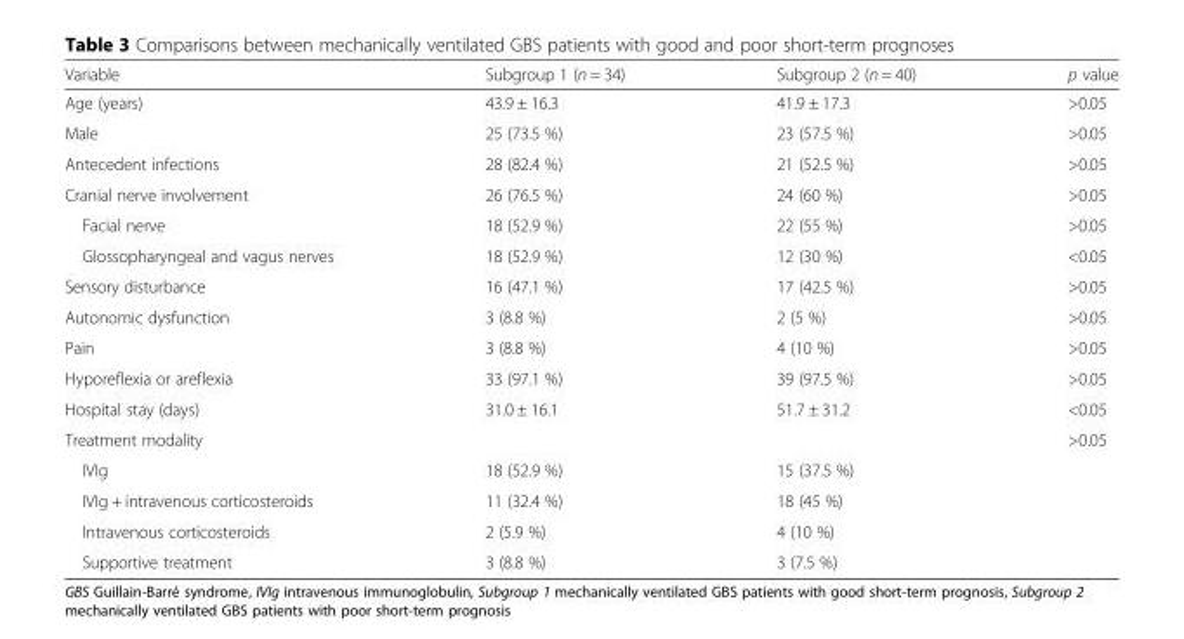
<table><thead><tr><td>Variable</td><td>Subgroup 1 (n = 34)</td><td>Subgroup 2 (n = 40)</td><td>p value</td></tr></thead><tbody><tr><td>Age (years)</td><td>43.9 ± 16.3</td><td>41.9 ± 17.3</td><td>&gt;0.05</td></tr><tr><td>Male</td><td>25 (73.5 %)</td><td>23 (57.5 %)</td><td>&gt;0.05</td></tr><tr><td>Antecedent infections</td><td>28 (82.4 %)</td><td>21 (52.5 %)</td><td>&gt;0.05</td></tr><tr><td>Cranial nerve involvement</td><td>26 (76.5 %)</td><td>24 (60 %)</td><td>&gt;0.05</td></tr><tr><td>Facial nerve</td><td>18 (52.9 %)</td><td>22 (55 %)</td><td>&gt;0.05</td></tr><tr><td>Glossopharyngeal and vagus nerves</td><td>18 (52.9 %)</td><td>12 (30 %)</td><td>&lt;0.05</td></tr><tr><td>Sensory disturbance</td><td>16 (47.1 %)</td><td>17 (42.5 %)</td><td>&gt;0.05</td></tr><tr><td>Autonomic dysfunction</td><td>3 (8.8 %)</td><td>2 (5 %)</td><td>&gt;0.05</td></tr><tr><td>Pain</td><td>3 (8.8 %)</td><td>4 (10 %)</td><td>&gt;0.05</td></tr><tr><td>Hyporeflexia or areflexia</td><td>33 (97.1 %)</td><td>39 (97.5 %)</td><td>&gt;0.05</td></tr><tr><td>Hospital stay (days)</td><td>31.0 ± 16.1</td><td>51.7 ± 31.2</td><td>&lt;0.05</td></tr><tr><td>Treatment modality</td><td></td><td></td><td>&gt;0.05</td></tr><tr><td>IVIg</td><td>18 (52.9 %)</td><td>15 (37.5 %)</td><td></td></tr><tr><td>IVIg + intravenous corticosteroids</td><td>11 (32.4 %)</td><td>18 (45 %)</td><td></td></tr><tr><td>Intravenous corticosteroids</td><td>2 (5.9 %)</td><td>4 (10 %)</td><td></td></tr><tr><td>Supportive treatment</td><td>3 (8.8 %)</td><td>3 (7.5 %)</td><td></td></tr></tbody></table>